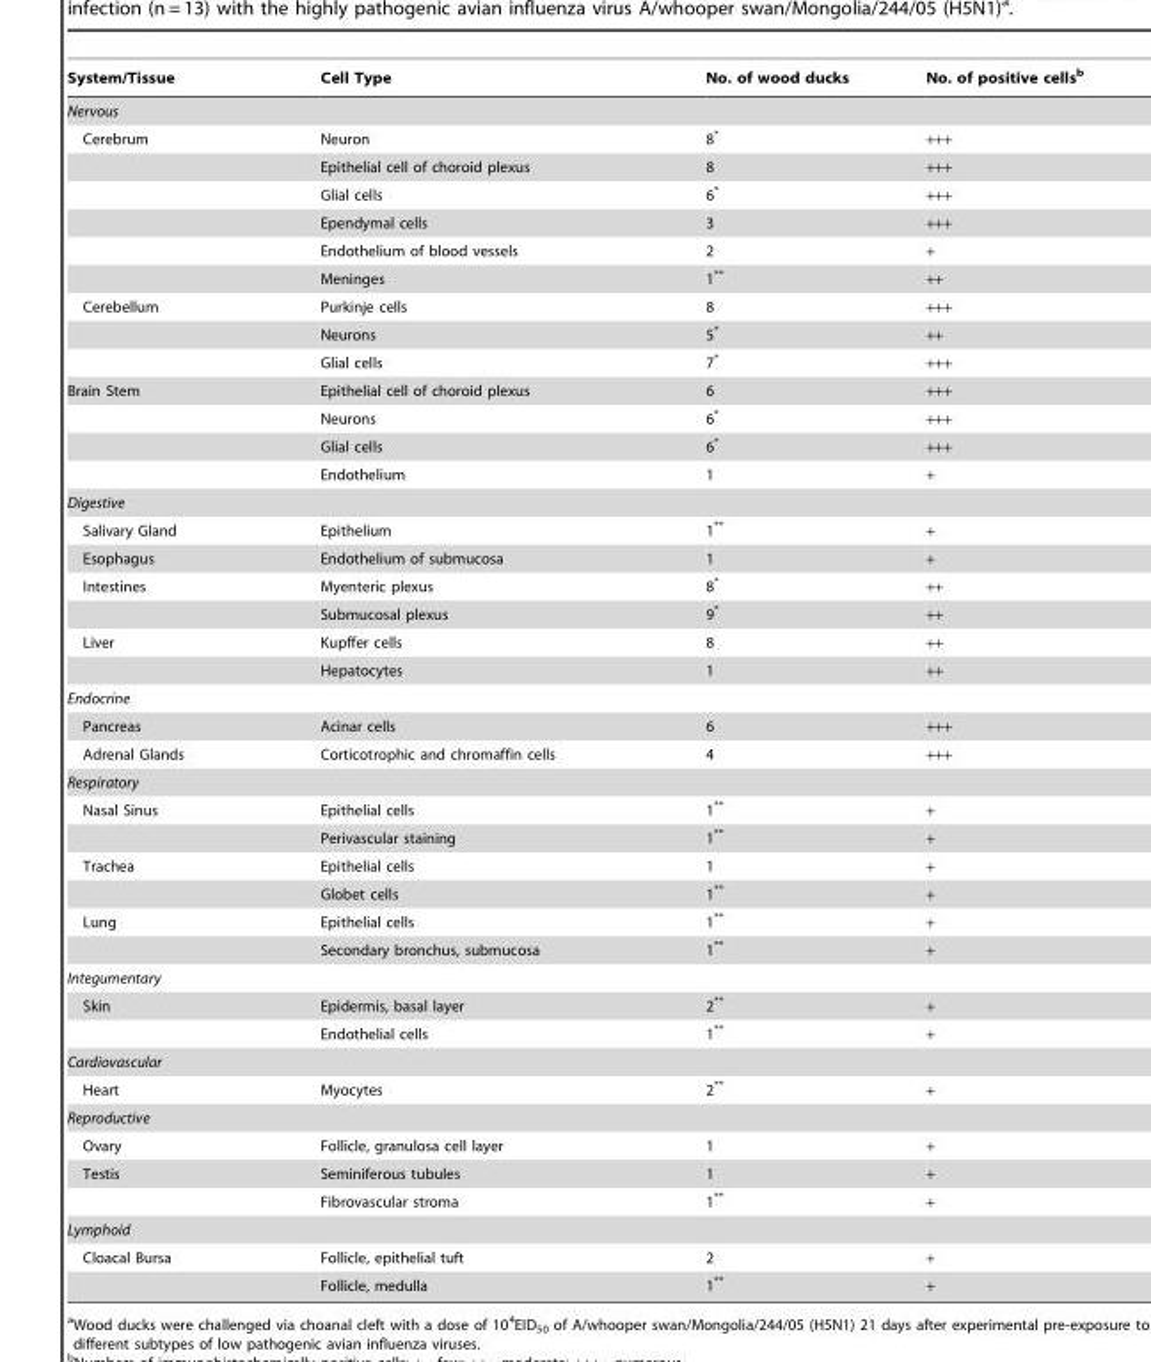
<table><thead><tr><td>System/Tissue</td><td>Cell Type</td><td>No. of wood ducks</td><td>No. of positive cells<sup>b</sup></td></tr></thead><tbody><tr><td colspan="4">Nervous</td></tr><tr><td rowspan="6">Cerebrum</td><td>Neuron</td><td>8*</td><td>+++</td></tr><tr><td>Epithelial cell of choroid plexus</td><td>8</td><td>+++</td></tr><tr><td>Glial cells</td><td>6*</td><td>+++</td></tr><tr><td>Ependymal cells</td><td>3</td><td>+++</td></tr><tr><td>Endothelium of blood vessels</td><td>2</td><td>+</td></tr><tr><td>Meninges</td><td>1**</td><td>++</td></tr><tr><td rowspan="3">Cerebellum</td><td>Purkinje cells</td><td>8</td><td>+++</td></tr><tr><td>Neurons</td><td>5*</td><td>++</td></tr><tr><td>Glial cells</td><td>7*</td><td>+++</td></tr><tr><td rowspan="4">Brain Stem</td><td>Epithelial cell of choroid plexus</td><td>6</td><td>+++</td></tr><tr><td>Neurons</td><td>6*</td><td>+++</td></tr><tr><td>Glial cells</td><td>6*</td><td>+++</td></tr><tr><td>Endothelium</td><td>1</td><td>+</td></tr><tr><td colspan="4">Digestive</td></tr><tr><td>Salivary Gland</td><td>Epithelium</td><td>1**</td><td>+</td></tr><tr><td>Esophagus</td><td>Endothelium of submucosa</td><td>1</td><td>+</td></tr><tr><td rowspan="2">Intestines</td><td>Myenteric plexus</td><td>8*</td><td>++</td></tr><tr><td>Submucosal plexus</td><td>9*</td><td>++</td></tr><tr><td rowspan="2">Liver</td><td>Kupffer cells</td><td>8</td><td>++</td></tr><tr><td>Hepatocytes</td><td>1</td><td>++</td></tr><tr><td colspan="4">Endocrine</td></tr><tr><td>Pancreas</td><td>Acinar cells</td><td>6</td><td>+++</td></tr><tr><td>Adrenal Glands</td><td>Corticotrophic and chromaffin cells</td><td>4</td><td>+++</td></tr><tr><td colspan="4">Respiratory</td></tr><tr><td rowspan="2">Nasal Sinus</td><td>Epithelial cells</td><td>1**</td><td>+</td></tr><tr><td>Perivascular staining</td><td>1**</td><td>+</td></tr><tr><td rowspan="2">Trachea</td><td>Epithelial cells</td><td>1</td><td>+</td></tr><tr><td>Globet cells</td><td>1**</td><td>+</td></tr><tr><td rowspan="2">Lung</td><td>Epithelial cells</td><td>1**</td><td>+</td></tr><tr><td>Secondary bronchus, submucosa</td><td>1**</td><td>+</td></tr><tr><td colspan="4">Integumentary</td></tr><tr><td rowspan="2">Skin</td><td>Epidermis, basal layer</td><td>2**</td><td>+</td></tr><tr><td>Endothelial cells</td><td>1**</td><td>+</td></tr><tr><td colspan="4">Cardiovascular</td></tr><tr><td>Heart</td><td>Myocytes</td><td>2**</td><td>+</td></tr><tr><td colspan="4">Reproductive</td></tr><tr><td>Ovary</td><td>Follicle, granulosa cell layer</td><td>1</td><td>+</td></tr><tr><td rowspan="2">Testis</td><td>Seminiferous tubules</td><td>1</td><td>+</td></tr><tr><td>Fibrovascular stroma</td><td>1**</td><td>+</td></tr><tr><td colspan="4">Lymphoid</td></tr><tr><td rowspan="2">Cloacal Bursa</td><td>Follicle, epithelial tuft</td><td>2</td><td>+</td></tr><tr><td>Follicle, medulla</td><td>1**</td><td>+</td></tr></tbody></table>